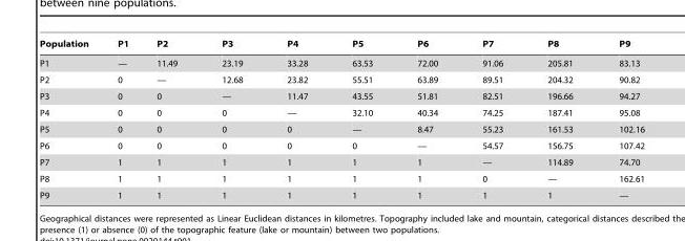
<table><thead><tr><td>Population</td><td>P1</td><td>P2</td><td>P3</td><td>P4</td><td>P5</td><td>P6</td><td>P7</td><td>P8</td><td>P9</td></tr></thead><tbody><tr><td>P1</td><td>—</td><td>11.49</td><td>23.19</td><td>33.28</td><td>63.53</td><td>72.00</td><td>91.06</td><td>205.81</td><td>83.13</td></tr><tr><td>P2</td><td>0</td><td>—</td><td>12.68</td><td>23.82</td><td>55.51</td><td>63.89</td><td>89.51</td><td>204.32</td><td>90.82</td></tr><tr><td>P3</td><td>0</td><td>0</td><td>—</td><td>11.47</td><td>43.55</td><td>51.81</td><td>82.51</td><td>196.66</td><td>94.27</td></tr><tr><td>P4</td><td>0</td><td>0</td><td>0</td><td>—</td><td>32.10</td><td>40.34</td><td>74.25</td><td>187.41</td><td>95.08</td></tr><tr><td>P5</td><td>0</td><td>0</td><td>0</td><td>0</td><td>—</td><td>8.47</td><td>55.23</td><td>161.53</td><td>102.16</td></tr><tr><td>P6</td><td>0</td><td>0</td><td>0</td><td>0</td><td>0</td><td>—</td><td>54.57</td><td>156.75</td><td>107.42</td></tr><tr><td>P7</td><td>1</td><td>1</td><td>1</td><td>1</td><td>1</td><td>1</td><td>—</td><td>114.89</td><td>74.70</td></tr><tr><td>P8</td><td>1</td><td>1</td><td>1</td><td>1</td><td>1</td><td>1</td><td>0</td><td>—</td><td>162.61</td></tr><tr><td>P9</td><td>1</td><td>1</td><td>1</td><td>1</td><td>1</td><td>1</td><td>1</td><td>1</td><td>—</td></tr></tbody></table>